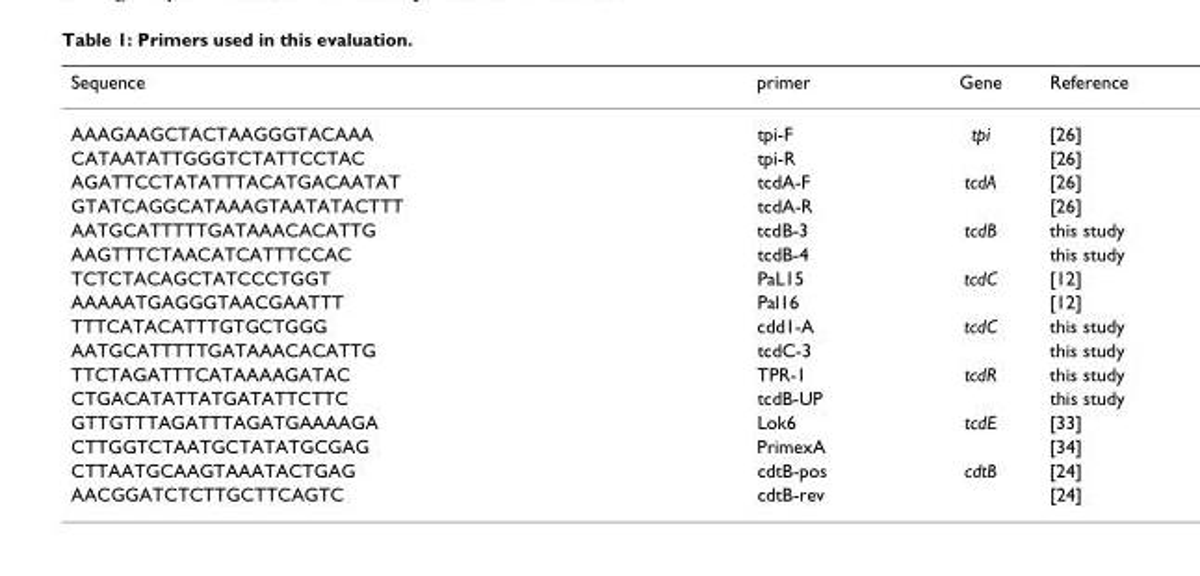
<table><thead><tr><td>Sequence</td><td>primer</td><td>Gene</td><td>Reference</td></tr></thead><tbody><tr><td>AAAGAAGCTACTAAGGGTACAAA</td><td>tpi-F</td><td>tpi</td><td>[26]</td></tr><tr><td>CATAATATTGGGTCTATTCCTAC</td><td>tpi-R</td><td></td><td>[26]</td></tr><tr><td>AGATTCCTATATTTACATGACAATAT</td><td>tcdA-F</td><td>tcdA</td><td>[26]</td></tr><tr><td>GTATCAGGCATAAAGTAATATACTTT</td><td>tcdA-R</td><td></td><td>[26]</td></tr><tr><td>AATGCATTTTTGATAAACACATTG</td><td>tcdB-3</td><td>tcdB</td><td>this study</td></tr><tr><td>AAGTTTCTAACATCATTTCCAC</td><td>tcdB-4</td><td></td><td>this study</td></tr><tr><td>TCTCTACAGCTATCCCTGGT</td><td>PaL15</td><td>tcdC</td><td>[12]</td></tr><tr><td>AAAAATGAGGGTAACGAATTT</td><td>Pal16</td><td></td><td>[12]</td></tr><tr><td>TTTCATACATTTGTGCTGGG</td><td>cdd1-A</td><td>tcdC</td><td>this study</td></tr><tr><td>AATGCATTTTTGATAAACACATTG</td><td>tcdC-3</td><td></td><td>this study</td></tr><tr><td>TTCTAGATTTCATAAAAGATAC</td><td>TPR-1</td><td>tcdR</td><td>this study</td></tr><tr><td>CTGACATATTATGATATTCTTC</td><td>tcdB-UP</td><td></td><td>this study</td></tr><tr><td>GTTGTTTAGATTTAGATGAAAAGA</td><td>Lok6</td><td>tcdE</td><td>[33]</td></tr><tr><td>CTTGGTCTAATGCTATATGCGAG</td><td>PrimexA</td><td></td><td>[34]</td></tr><tr><td>CTTAATGCAAGTAAATACTGAG</td><td>cdtB-pos</td><td>cdtB</td><td>[24]</td></tr><tr><td>AACGGATCTCTTGCTTCAGTC</td><td>cdtB-rev</td><td></td><td>[24]</td></tr></tbody></table>